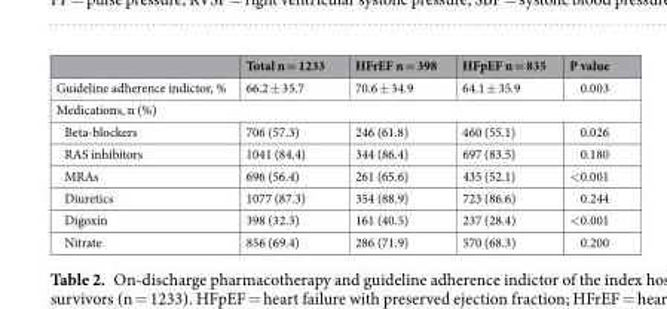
<table><thead><tr><td></td><td>Total n = 1233</td><td>HFrEF n = 398</td><td>HFpEF n = 835</td><td>P value</td></tr></thead><tbody><tr><td>Guideline adherence indictor, %</td><td>66.2 ± 35.7</td><td>70.6 ± 34.9</td><td>64.1 ± 35.9</td><td>0.003</td></tr><tr><td colspan="5">Medications, n (%)</td></tr><tr><td>Beta-blockers</td><td>706 (57.3)</td><td>246 (61.8)</td><td>460 (55.1)</td><td>0.026</td></tr><tr><td>RAS inhibitors</td><td>1041 (84.4)</td><td>344 (86.4)</td><td>697 (83.5)</td><td>0.180</td></tr><tr><td>MRAs</td><td>696 (56.4)</td><td>261 (65.6)</td><td>435 (52.1)</td><td>&lt;0.001</td></tr><tr><td>Diuretics</td><td>1077 (87.3)</td><td>354 (88.9)</td><td>723 (86.6)</td><td>0.244</td></tr><tr><td>Digoxin</td><td>398 (32.3)</td><td>161 (40.5)</td><td>237 (28.4)</td><td>&lt;0.001</td></tr><tr><td>Nitrate</td><td>856 (69.4)</td><td>286 (71.9)</td><td>570 (68.3)</td><td>0.200</td></tr></tbody></table>